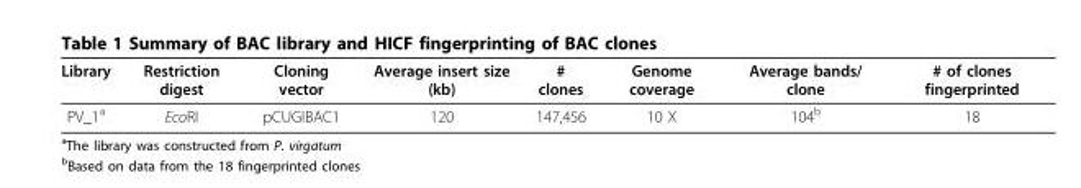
<table><thead><tr><td>Library</td><td>Restriction digest</td><td>Cloning vector</td><td>Average insert size (kb)</td><td># clones</td><td>Genome coverage</td><td>Average bands/ clone</td><td># of clones fingerprinted</td></tr></thead><tbody><tr><td>PV_1<sup>a</sup></td><td>EcoRI</td><td>pCUGIBAC1</td><td>120</td><td>147,456</td><td>10 X</td><td>104<sup>b</sup></td><td>18</td></tr></tbody></table>